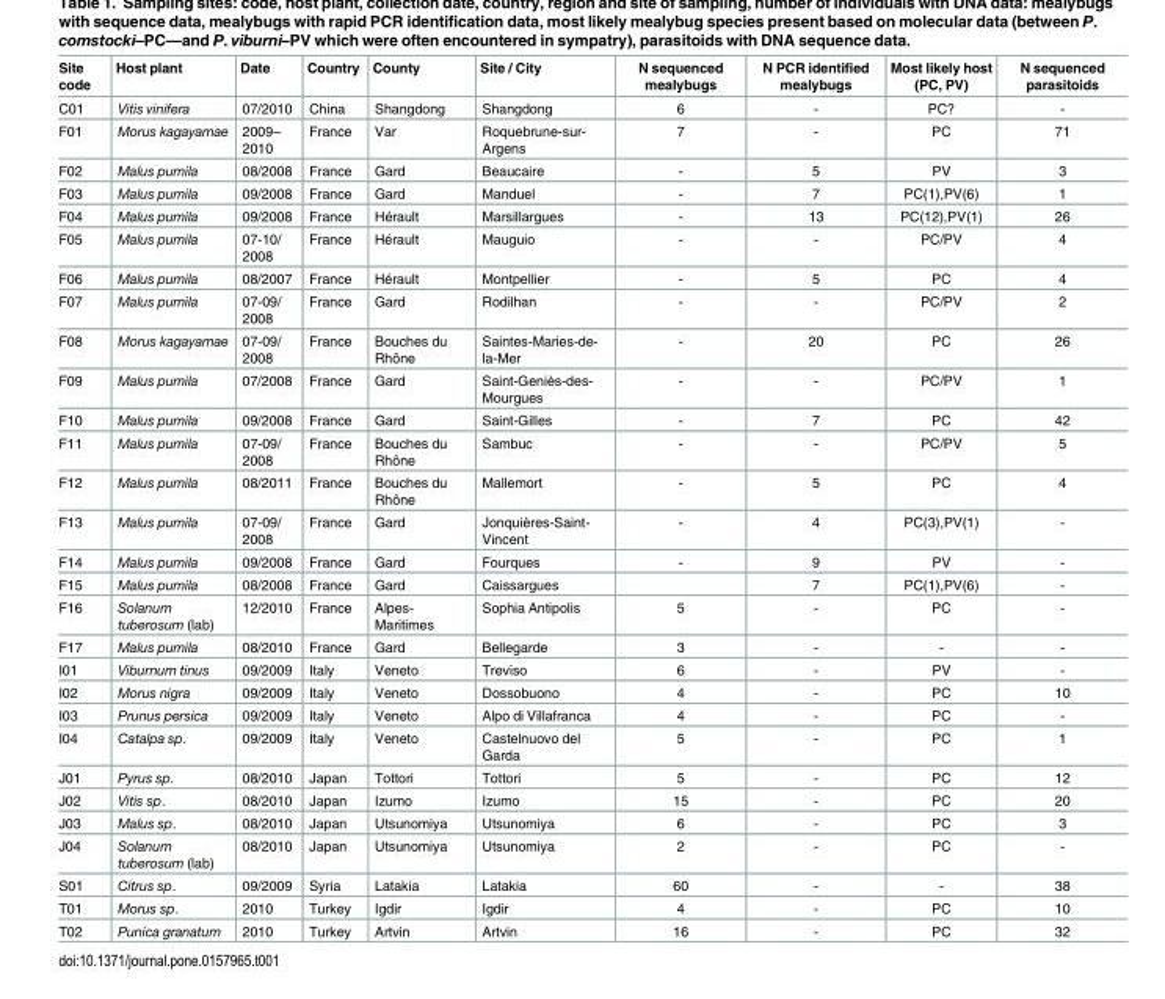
<table><thead><tr><td>Site code</td><td>Host plant</td><td>Date</td><td>Country</td><td>County</td><td>Site / City</td><td>N sequenced mealybugs</td><td>N PCR identified mealybugs</td><td>Most likely host (PC, PV)</td><td>N sequenced parasitoids</td></tr></thead><tbody><tr><td>C01</td><td>Vitis vinifera</td><td>07/2010</td><td>China</td><td>Shangdong</td><td>Shangdong</td><td>6</td><td>-</td><td>PC?</td><td>-</td></tr><tr><td>F01</td><td>Morus kagayamae</td><td>2009– 2010</td><td>France</td><td>Var</td><td>Roquebrune-sur- Argens</td><td>7</td><td>-</td><td>PC</td><td>71</td></tr><tr><td>F02</td><td>Malus pumila</td><td>08/2008</td><td>France</td><td>Gard</td><td>Beaucaire</td><td>-</td><td>5</td><td>PV</td><td>3</td></tr><tr><td>F03</td><td>Malus pumila</td><td>09/2008</td><td>France</td><td>Gard</td><td>Manduel</td><td>-</td><td>7</td><td>PC(1),PV(6)</td><td>1</td></tr><tr><td>F04</td><td>Malus pumila</td><td>09/2008</td><td>France</td><td>Hérault</td><td>Marsillargues</td><td>-</td><td>13</td><td>PC(12),PV(1)</td><td>26</td></tr><tr><td>F05</td><td>Malus pumila</td><td>07-10/ 2008</td><td>France</td><td>Hérault</td><td>Mauguio</td><td>-</td><td>-</td><td>PC/PV</td><td>4</td></tr><tr><td>F06</td><td>Malus pumila</td><td>08/2007</td><td>France</td><td>Hérault</td><td>Montpellier</td><td>-</td><td>5</td><td>PC</td><td>4</td></tr><tr><td>F07</td><td>Malus pumila</td><td>07-09/ 2008</td><td>France</td><td>Gard</td><td>Rodilhan</td><td>-</td><td>-</td><td>PC/PV</td><td>2</td></tr><tr><td>F08</td><td>Morus kagayamae</td><td>07-09/ 2008</td><td>France</td><td>Bouches du Rhône</td><td>Saintes-Maries-de- la-Mer</td><td>-</td><td>20</td><td>PC</td><td>26</td></tr><tr><td>F09</td><td>Malus pumila</td><td>07/2008</td><td>France</td><td>Gard</td><td>Saint-Geniès-des- Mourgues</td><td>-</td><td>-</td><td>PC/PV</td><td>1</td></tr><tr><td>F10</td><td>Malus pumila</td><td>09/2008</td><td>France</td><td>Gard</td><td>Saint-Gilles</td><td>-</td><td>7</td><td>PC</td><td>42</td></tr><tr><td>F11</td><td>Malus pumila</td><td>07-09/ 2008</td><td>France</td><td>Bouches du Rhône</td><td>Sambuc</td><td>-</td><td>-</td><td>PC/PV</td><td>5</td></tr><tr><td>F12</td><td>Malus pumila</td><td>08/2011</td><td>France</td><td>Bouches du Rhône</td><td>Mallemort</td><td>-</td><td>5</td><td>PC</td><td>4</td></tr><tr><td>F13</td><td>Malus pumila</td><td>07-09/ 2008</td><td>France</td><td>Gard</td><td>Jonquières-Saint- Vincent</td><td>-</td><td>4</td><td>PC(3),PV(1)</td><td>-</td></tr><tr><td>F14</td><td>Malus pumila</td><td>09/2008</td><td>France</td><td>Gard</td><td>Fourques</td><td>-</td><td>9</td><td>PV</td><td>-</td></tr><tr><td>F15</td><td>Malus pumila</td><td>08/2008</td><td>France</td><td>Gard</td><td>Caissargues</td><td></td><td>7</td><td>PC(1),PV(6)</td><td>-</td></tr><tr><td>F16</td><td>Solanum tuberosum (lab)</td><td>12/2010</td><td>France</td><td>Alpes- Maritimes</td><td>Sophia Antipolis</td><td>5</td><td>-</td><td>PC</td><td>-</td></tr><tr><td>F17</td><td>Malus pumila</td><td>08/2010</td><td>France</td><td>Gard</td><td>Bellegarde</td><td>3</td><td>-</td><td>-</td><td>-</td></tr><tr><td>I01</td><td>Viburnum tinus</td><td>09/2009</td><td>Italy</td><td>Veneto</td><td>Treviso</td><td>6</td><td>-</td><td>PV</td><td>-</td></tr><tr><td>I02</td><td>Morus nigra</td><td>09/2009</td><td>Italy</td><td>Veneto</td><td>Dossobuono</td><td>4</td><td>-</td><td>PC</td><td>10</td></tr><tr><td>I03</td><td>Prunus persica</td><td>09/2009</td><td>Italy</td><td>Veneto</td><td>Alpo di Villafranca</td><td>4</td><td>-</td><td>PC</td><td>-</td></tr><tr><td>I04</td><td>Catalpa sp.</td><td>09/2009</td><td>Italy</td><td>Veneto</td><td>Castelnuovo del Garda</td><td>5</td><td>-</td><td>PC</td><td>1</td></tr><tr><td>J01</td><td>Pyrus sp.</td><td>08/2010</td><td>Japan</td><td>Tottori</td><td>Tottori</td><td>5</td><td>-</td><td>PC</td><td>12</td></tr><tr><td>J02</td><td>Vitis sp.</td><td>08/2010</td><td>Japan</td><td>Izumo</td><td>Izumo</td><td>15</td><td>-</td><td>PC</td><td>20</td></tr><tr><td>J03</td><td>Malus sp.</td><td>08/2010</td><td>Japan</td><td>Utsunomiya</td><td>Utsunomiya</td><td>6</td><td>-</td><td>PC</td><td>3</td></tr><tr><td>J04</td><td>Solanum tuberosum (lab)</td><td>08/2010</td><td>Japan</td><td>Utsunomiya</td><td>Utsunomiya</td><td>2</td><td>-</td><td>PC</td><td>-</td></tr><tr><td>S01</td><td>Citrus sp.</td><td>09/2009</td><td>Syria</td><td>Latakia</td><td>Latakia</td><td>60</td><td>-</td><td>-</td><td>38</td></tr><tr><td>T01</td><td>Morus sp.</td><td>2010</td><td>Turkey</td><td>Igdir</td><td>Igdir</td><td>4</td><td>-</td><td>PC</td><td>10</td></tr><tr><td>T02</td><td>Punica granatum</td><td>2010</td><td>Turkey</td><td>Artvin</td><td>Artvin</td><td>16</td><td>-</td><td>PC</td><td>32</td></tr></tbody></table>